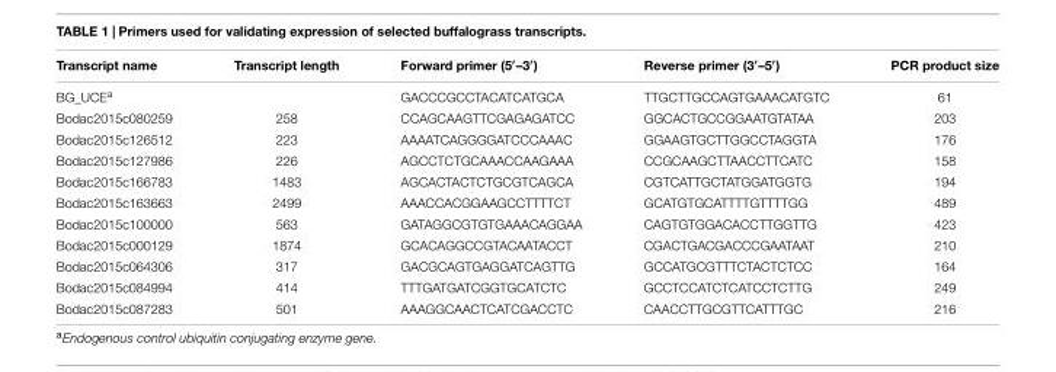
<table><thead><tr><td>Transcript name</td><td>Transcript length</td><td>Forward primer (5′–3′)</td><td>Reverse primer (3′–5′)</td><td>PCR product size</td></tr></thead><tbody><tr><td>BG_UCE<sup>a</sup></td><td></td><td>GACCCGCCTACATCATGCA</td><td>TTGCTTGCCAGTGAAACATGTC</td><td>61</td></tr><tr><td>Bodac2015c080259</td><td>258</td><td>CCAGCAAGTTCGAGAGATCC</td><td>GGCACTGCCGGAATGTATAA</td><td>203</td></tr><tr><td>Bodac2015c126512</td><td>223</td><td>AAAATCAGGGGATCCCAAAC</td><td>GGAAGTGCTTGGCCTAGGTA</td><td>176</td></tr><tr><td>Bodac2015c127986</td><td>226</td><td>AGCCTCTGCAAACCAAGAAA</td><td>CCGCAAGCTTAACCTTCATC</td><td>158</td></tr><tr><td>Bodac2015c166783</td><td>1483</td><td>AGCACTACTCTGCGTCAGCA</td><td>CGTCATTGCTATGGATGGTG</td><td>194</td></tr><tr><td>Bodac2015c163663</td><td>2499</td><td>AAACCACGGAAGCCTTTTCT</td><td>GCATGTGCATTTTGTTTTGG</td><td>489</td></tr><tr><td>Bodac2015c100000</td><td>563</td><td>GATAGGCGTGTGAAACAGGAA</td><td>CAGTGTGGACACCTTGGTTG</td><td>423</td></tr><tr><td>Bodac2015c000129</td><td>1874</td><td>GCACAGGCCGTACAATACCT</td><td>CGACTGACGACCCGAATAAT</td><td>210</td></tr><tr><td>Bodac2015c064306</td><td>317</td><td>GACGCAGTGAGGATCAGTTG</td><td>GCCATGCGTTTCTACTCTCC</td><td>164</td></tr><tr><td>Bodac2015c084994</td><td>414</td><td>TTTGATGATCGGTGCATCTC</td><td>GCCTCCATCTCATCCTCTTG</td><td>249</td></tr><tr><td>Bodac2015c087283</td><td>501</td><td>AAAGGCAACTCATCGACCTC</td><td>CAACCTTGCGTTCATTTGC</td><td>216</td></tr></tbody></table>